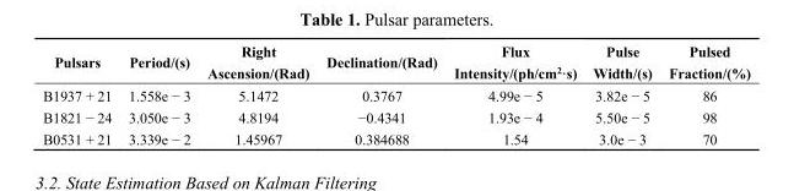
<table><thead><tr><td>Pulsars</td><td>Period/(s)</td><td>Right Ascension/(Rad)</td><td>Declination/(Rad)</td><td>Flux Intensity/(ph/cm<sup>2</sup>·s)</td><td>Pulse Width/(s)</td><td>Pulsed Fraction/(%)</td></tr></thead><tbody><tr><td>B1937 + 21</td><td>1.558e − 3</td><td>5.1472</td><td>0.3767</td><td>4.99e − 5</td><td>3.82e − 5</td><td>86</td></tr><tr><td>B1821 − 24</td><td>3.050e − 3</td><td>4.8194</td><td>−0.4341</td><td>1.93e − 4</td><td>5.50e − 5</td><td>98</td></tr><tr><td>B0531 + 21</td><td>3.339e − 2</td><td>1.45967</td><td>0.384688</td><td>1.54</td><td>3.0e − 3</td><td>70</td></tr></tbody></table>